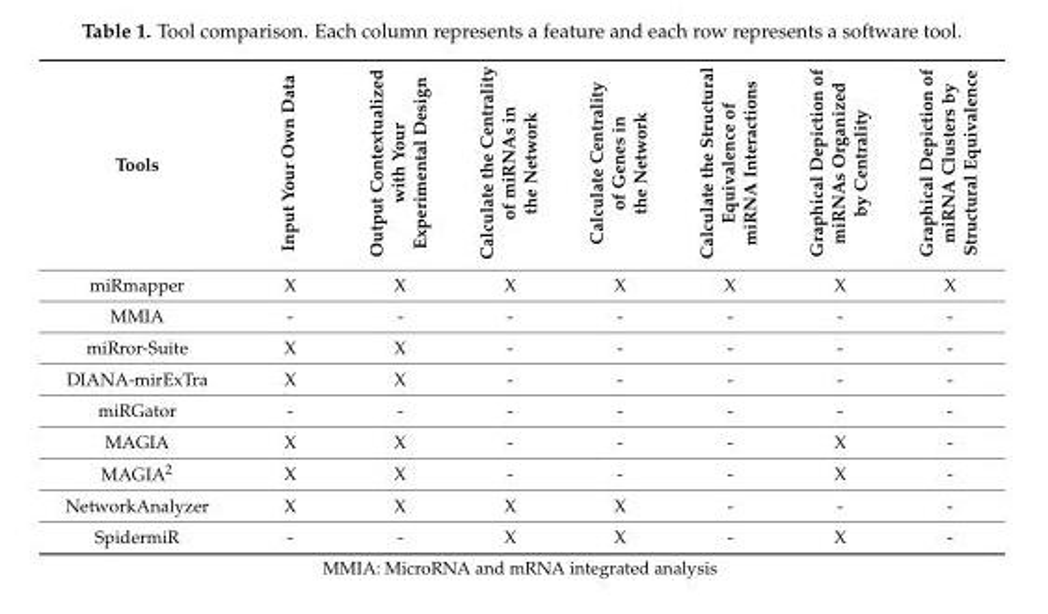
<table><thead><tr><td>Tools</td><td>Input Your Own Data</td><td>Output Contextualized with Your Experimental Design</td><td>Calculate the Centrality of miRNAs in the Network</td><td>Calculate Centrality of Genes in the Network</td><td>Calculate the Structural Equivalence of miRNA Interactions</td><td>Graphical Depiction of miRNAs Organized by Centrality</td><td>Graphical Depiction of miRNA Clusters by Structural Equivalence</td></tr></thead><tbody><tr><td>miRmapper</td><td>X</td><td>X</td><td>X</td><td>X</td><td>X</td><td>X</td><td>X</td></tr><tr><td>MMIA</td><td>-</td><td>-</td><td>-</td><td>-</td><td>-</td><td>-</td><td>-</td></tr><tr><td>miRror-Suite</td><td>X</td><td>X</td><td>-</td><td>-</td><td>-</td><td>-</td><td>-</td></tr><tr><td>DIANA-mirExTra</td><td>X</td><td>X</td><td>-</td><td>-</td><td>-</td><td>-</td><td>-</td></tr><tr><td>miRGator</td><td>-</td><td>-</td><td>-</td><td>-</td><td>-</td><td>-</td><td>-</td></tr><tr><td>MAGIA</td><td>X</td><td>X</td><td>-</td><td>-</td><td>-</td><td>X</td><td>-</td></tr><tr><td>MAGIA<sup>2</sup></td><td>X</td><td>X</td><td>-</td><td>-</td><td>-</td><td>X</td><td>-</td></tr><tr><td>NetworkAnalyzer</td><td>X</td><td>X</td><td>X</td><td>X</td><td>-</td><td>-</td><td>-</td></tr><tr><td>SpidermiR</td><td>-</td><td>-</td><td>X</td><td>X</td><td>-</td><td>X</td><td>-</td></tr></tbody></table>